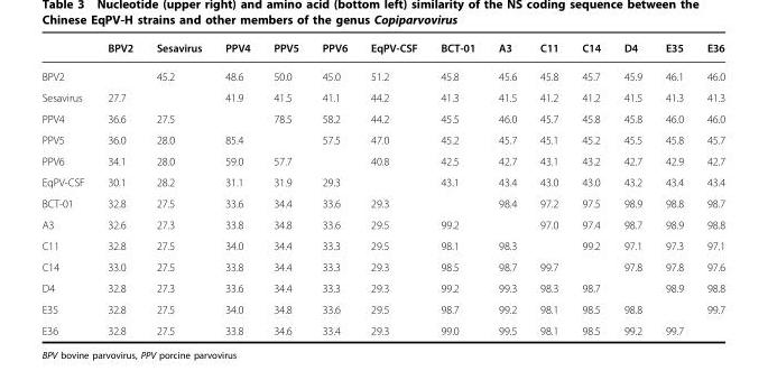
<table><thead><tr><td></td><td>BPV2</td><td>Sesavirus</td><td>PPV4</td><td>PPV5</td><td>PPV6</td><td>EqPV-CSF</td><td>BCT-01</td><td>A3</td><td>C11</td><td>C14</td><td>D4</td><td>E35</td><td>E36</td></tr></thead><tbody><tr><td>BPV2</td><td></td><td>45.2</td><td>48.6</td><td>50.0</td><td>45.0</td><td>51.2</td><td>45.8</td><td>45.6</td><td>45.8</td><td>45.7</td><td>45.9</td><td>46.1</td><td>46.0</td></tr><tr><td>Sesavirus</td><td>27.7</td><td></td><td>41.9</td><td>41.5</td><td>41.1</td><td>44.2</td><td>41.3</td><td>41.5</td><td>41.2</td><td>41.2</td><td>41.5</td><td>41.3</td><td>41.3</td></tr><tr><td>PPV4</td><td>36.6</td><td>27.5</td><td></td><td>78.5</td><td>58.2</td><td>44.2</td><td>45.5</td><td>46.0</td><td>45.7</td><td>45.8</td><td>45.8</td><td>46.0</td><td>46.0</td></tr><tr><td>PPV5</td><td>36.0</td><td>28.0</td><td>85.4</td><td></td><td>57.5</td><td>47.0</td><td>45.2</td><td>45.7</td><td>45.1</td><td>45.2</td><td>45.5</td><td>45.8</td><td>45.7</td></tr><tr><td>PPV6</td><td>34.1</td><td>28.0</td><td>59.0</td><td>57.7</td><td></td><td>40.8</td><td>42.5</td><td>42.7</td><td>43.1</td><td>43.2</td><td>42.7</td><td>42.9</td><td>42.7</td></tr><tr><td>EqPV-CSF</td><td>30.1</td><td>28.2</td><td>31.1</td><td>31.9</td><td>29.3</td><td></td><td>43.1</td><td>43.4</td><td>43.0</td><td>43.0</td><td>43.2</td><td>43.4</td><td>43.4</td></tr><tr><td>BCT-01</td><td>32.8</td><td>27.5</td><td>33.6</td><td>34.4</td><td>33.6</td><td>29.3</td><td></td><td>98.4</td><td>97.2</td><td>97.5</td><td>98.9</td><td>98.8</td><td>98.7</td></tr><tr><td>A3</td><td>32.6</td><td>27.3</td><td>33.8</td><td>34.8</td><td>33.6</td><td>29.5</td><td>99.2</td><td></td><td>97.0</td><td>97.4</td><td>98.7</td><td>98.9</td><td>98.8</td></tr><tr><td>C11</td><td>32.8</td><td>27.5</td><td>34.0</td><td>34.4</td><td>33.3</td><td>29.5</td><td>98.1</td><td>98.3</td><td></td><td>99.2</td><td>97.1</td><td>97.3</td><td>97.1</td></tr><tr><td>C14</td><td>33.0</td><td>27.5</td><td>33.8</td><td>34.4</td><td>33.3</td><td>29.3</td><td>98.5</td><td>98.7</td><td>99.7</td><td></td><td>97.8</td><td>97.8</td><td>97.6</td></tr><tr><td>D4</td><td>32.8</td><td>27.3</td><td>33.6</td><td>34.4</td><td>33.3</td><td>29.3</td><td>99.2</td><td>99.3</td><td>98.3</td><td>98.7</td><td></td><td>98.9</td><td>98.8</td></tr><tr><td>E35</td><td>32.8</td><td>27.5</td><td>34.0</td><td>34.8</td><td>33.6</td><td>29.5</td><td>98.7</td><td>99.2</td><td>98.1</td><td>98.5</td><td>98.8</td><td></td><td>99.7</td></tr><tr><td>E36</td><td>32.8</td><td>27.5</td><td>33.8</td><td>34.6</td><td>33.4</td><td>29.3</td><td>99.0</td><td>99.5</td><td>98.1</td><td>98.5</td><td>99.2</td><td>99.7</td><td></td></tr></tbody></table>